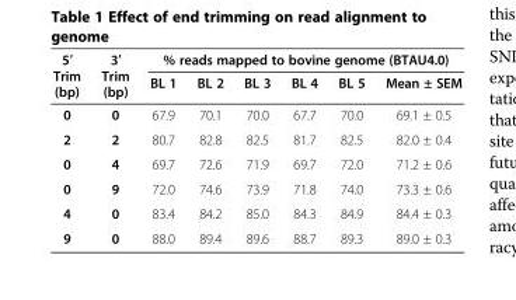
<table><thead><tr><td rowspan="2">5′ Trim (bp)</td><td rowspan="2">3′ Trim (bp)</td><td colspan="6">% reads mapped to bovine genome (BTAU4.0)</td></tr><tr><td>BL 1</td><td>BL 2</td><td>BL 3</td><td>BL 4</td><td>BL 5</td><td>Mean ± SEM</td></tr></thead><tbody><tr><td>0</td><td>0</td><td>67.9</td><td>70.1</td><td>70.0</td><td>67.7</td><td>70.0</td><td>69.1 ± 0.5</td></tr><tr><td>2</td><td>2</td><td>80.7</td><td>82.8</td><td>82.5</td><td>81.7</td><td>82.5</td><td>82.0 ± 0.4</td></tr><tr><td>0</td><td>4</td><td>69.7</td><td>72.6</td><td>71.9</td><td>69.7</td><td>72.0</td><td>71.2 ± 0.6</td></tr><tr><td>0</td><td>9</td><td>72.0</td><td>74.6</td><td>73.9</td><td>71.8</td><td>74.0</td><td>73.3 ± 0.6</td></tr><tr><td>4</td><td>0</td><td>83.4</td><td>84.2</td><td>85.0</td><td>84.3</td><td>84.9</td><td>84.4 ± 0.3</td></tr><tr><td>9</td><td>0</td><td>88.0</td><td>89.4</td><td>89.6</td><td>88.7</td><td>89.3</td><td>89.0 ± 0.3</td></tr></tbody></table>